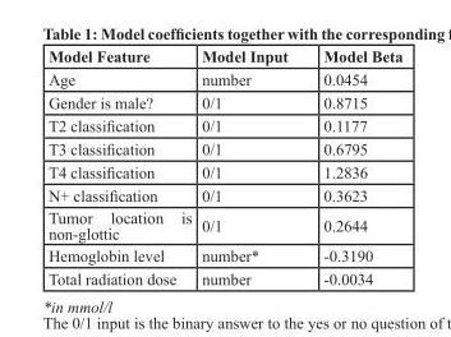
<table><thead><tr><td>Model Feature</td><td>Model Input</td><td>Model beta</td></tr></thead><tbody><tr><td>Age</td><td>number</td><td>0.0454</td></tr><tr><td>Gender is male?</td><td>0/1</td><td>0.8715</td></tr><tr><td>T2 classification</td><td>0/1</td><td>0.1177</td></tr><tr><td>T3 classification</td><td>0/1</td><td>0.6795</td></tr><tr><td>T4 classification</td><td>0/1</td><td>1.2836</td></tr><tr><td>N+ classification</td><td>0/1</td><td>0.3623</td></tr><tr><td>Tumor location is non-glottic</td><td>0/1</td><td>0.2644</td></tr><tr><td>Hemoglobin level</td><td>number*</td><td>-0.3190</td></tr><tr><td>Total radiation dose</td><td>number</td><td>-0.0034</td></tr></tbody></table>